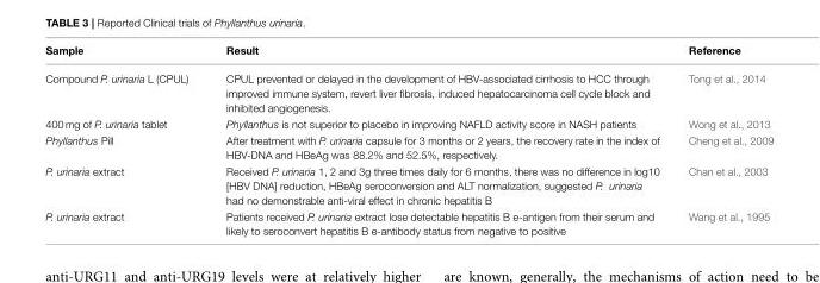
<table><thead><tr><td>Sample</td><td>Result</td><td>Reference</td></tr></thead><tbody><tr><td>Compound P. urinaria L (CPUL)</td><td>CPUL prevented or delayed in the development of HBV-associated cirrhosis to HCC through improved immune system, revert liver fibrosis, induced hepatocarcinoma cell cycle block and inhibited angiogenesis.</td><td>Tong et al., 2014</td></tr><tr><td>400 mg of P. urinaria tablet</td><td>Phyllanthus is not superior to placebo in improving NAFLD activity score in NASH patients</td><td>Wong et al., 2013</td></tr><tr><td>Phyllanthus Pill</td><td>After treatment with P. urinaria capsule for 3 months or 2 years, the recovery rate in the index of HBV-DNA and HBeAg was 88.2% and 52.5%, respectively.</td><td>Cheng et al., 2009</td></tr><tr><td>P. urinaria extract</td><td>Received P. urinaria 1, 2 and 3g three times daily for 6 months, there was no difference in log10 [HBV DNA] reduction, HBeAg seroconversion and ALT normalization, suggested P. urinaria had no demonstrable anti-viral effect in chronic hepatitis B</td><td>Chan et al., 2003</td></tr><tr><td>P. urinaria extract</td><td>Patients received P. urinaria extract lose detectable hepatitis B e-antigen from their serum and likely to seroconvert hepatitis B e-antibody status from negative to positive</td><td>Wang et al., 1995</td></tr></tbody></table>